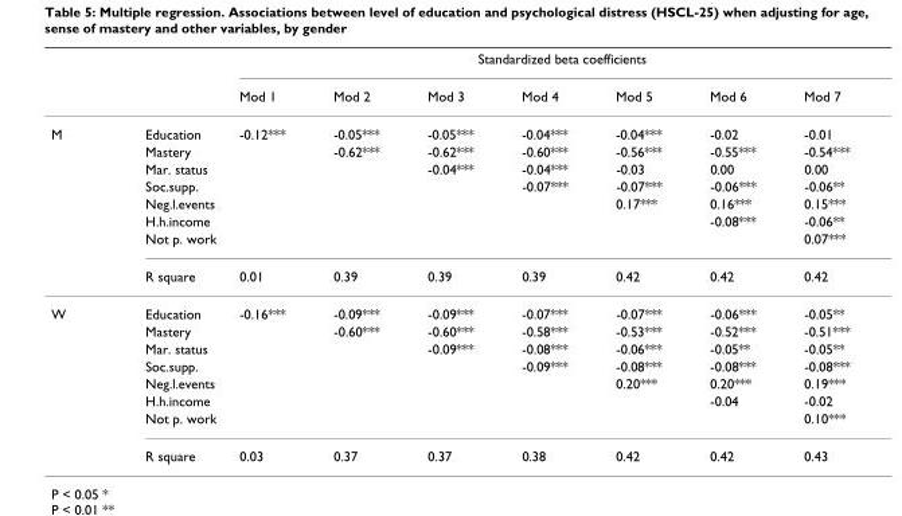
<table><thead><tr><td rowspan="2"></td><td rowspan="2"></td><td colspan="7">Standardized beta coefficients</td></tr><tr><td>Mod 1</td><td>Mod 2</td><td>Mod 3</td><td>Mod 4</td><td>Mod 5</td><td>Mod 6</td><td>Mod 7</td></tr></thead><tbody><tr><td rowspan="8">M</td><td>Education</td><td>-0.12***</td><td>-0.05***</td><td>-0.05***</td><td>-0.04***</td><td>-0.04***</td><td>-0.02</td><td>-0.01</td></tr><tr><td>Mastery</td><td></td><td>-0.62***</td><td>-0.62***</td><td>-0.60***</td><td>-0.56***</td><td>-0.55***</td><td>-0.54***</td></tr><tr><td>Mar. status</td><td></td><td></td><td>-0.04***</td><td>-0.04***</td><td>-0.03</td><td>0.00</td><td>0.00</td></tr><tr><td>Soc.supp.</td><td></td><td></td><td></td><td>-0.07***</td><td>-0.07***</td><td>-0.06***</td><td>-0.06**</td></tr><tr><td>Neg.l.events</td><td></td><td></td><td></td><td></td><td>0.17***</td><td>0.16***</td><td>0.15***</td></tr><tr><td>H.h.income</td><td></td><td></td><td></td><td></td><td></td><td>-0.08***</td><td>-0.06**</td></tr><tr><td>Not p. work</td><td></td><td></td><td></td><td></td><td></td><td></td><td>0.07***</td></tr><tr><td>R square</td><td>0.01</td><td>0.39</td><td>0.39</td><td>0.39</td><td>0.42</td><td>0.42</td><td>0.42</td></tr><tr><td rowspan="8">W</td><td>Education</td><td>-0.16***</td><td>-0.09***</td><td>-0.09***</td><td>-0.07***</td><td>-0.07***</td><td>-0.06***</td><td>-0.05**</td></tr><tr><td>Mastery</td><td></td><td>-0.60***</td><td>-0.60***</td><td>-0.58***</td><td>-0.53***</td><td>-0.52***</td><td>-0.51***</td></tr><tr><td>Mar. status</td><td></td><td></td><td>-0.09***</td><td>-0.08***</td><td>-0.06***</td><td>-0.05**</td><td>-0.05**</td></tr><tr><td>Soc.supp.</td><td></td><td></td><td></td><td>-0.09***</td><td>-0.08***</td><td>-0.08***</td><td>-0.08***</td></tr><tr><td>Neg.l.events</td><td></td><td></td><td></td><td></td><td>0.20***</td><td>0.20***</td><td>0.19***</td></tr><tr><td>H.h.income</td><td></td><td></td><td></td><td></td><td></td><td>-0.04</td><td>-0.02</td></tr><tr><td>Not p. work</td><td></td><td></td><td></td><td></td><td></td><td></td><td>0.10***</td></tr><tr><td>R square</td><td>0.03</td><td>0.37</td><td>0.37</td><td>0.38</td><td>0.42</td><td>0.42</td><td>0.43</td></tr></tbody></table>